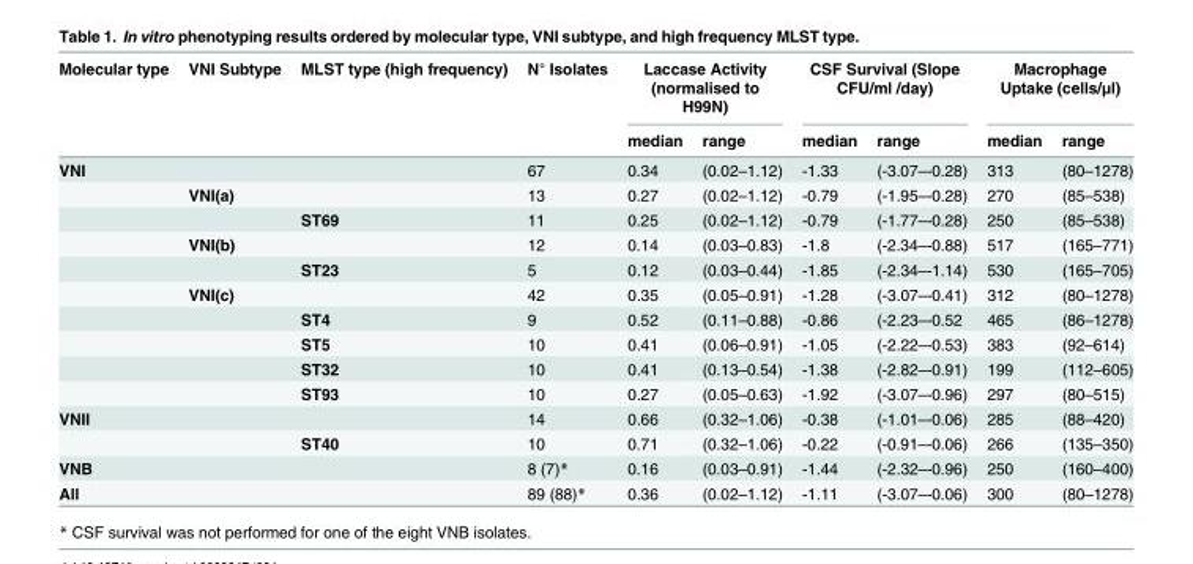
<table><thead><tr><td rowspan="2">Molecular type</td><td rowspan="2">VNI Subtype</td><td rowspan="2">MLST type (high frequency)</td><td rowspan="2">N° Isolates</td><td colspan="2">Laccase Activity (normalised to H99N)</td><td colspan="2">CSF Survival (Slope CFU/ml /day)</td><td colspan="2">Macrophage Uptake (cells/μl)</td></tr><tr><td>median</td><td>range</td><td>median</td><td>range</td><td>median</td><td>range</td></tr></thead><tbody><tr><td rowspan="10">VNI</td><td></td><td></td><td>67</td><td>0.34</td><td>(0.02–1.12)</td><td>-1.33</td><td>(-3.07–-0.28)</td><td>313</td><td>(80–1278)</td></tr><tr><td>VNI(a)</td><td></td><td>13</td><td>0.27</td><td>(0.02–1.12)</td><td>-0.79</td><td>(-1.95–-0.28)</td><td>270</td><td>(85–538)</td></tr><tr><td></td><td>ST69</td><td>11</td><td>0.25</td><td>(0.02–1.12)</td><td>-0.79</td><td>(-1.77–-0.28)</td><td>250</td><td>(85–538)</td></tr><tr><td>VNI(b)</td><td></td><td>12</td><td>0.14</td><td>(0.03–0.83)</td><td>-1.8</td><td>(-2.34–-0.88)</td><td>517</td><td>(165–771)</td></tr><tr><td></td><td>ST23</td><td>5</td><td>0.12</td><td>(0.03–0.44)</td><td>-1.85</td><td>(-2.34–-1.14)</td><td>530</td><td>(165–705)</td></tr><tr><td>VNI(c)</td><td></td><td>42</td><td>0.35</td><td>(0.05–0.91)</td><td>-1.28</td><td>(-3.07–-0.41)</td><td>312</td><td>(80–1278)</td></tr><tr><td></td><td>ST4</td><td>9</td><td>0.52</td><td>(0.11–0.88)</td><td>-0.86</td><td>(-2.23–-0.52</td><td>465</td><td>(86–1278)</td></tr><tr><td></td><td>ST5</td><td>10</td><td>0.41</td><td>(0.06–0.91)</td><td>-1.05</td><td>(-2.22–-0.53)</td><td>383</td><td>(92–614)</td></tr><tr><td></td><td>ST32</td><td>10</td><td>0.41</td><td>(0.13–0.54)</td><td>-1.38</td><td>(-2.82–-0.91)</td><td>199</td><td>(112–605)</td></tr><tr><td></td><td>ST93</td><td>10</td><td>0.27</td><td>(0.05–0.63)</td><td>-1.92</td><td>(-3.07–-0.96)</td><td>297</td><td>(80–515)</td></tr><tr><td rowspan="2">VNII</td><td></td><td></td><td>14</td><td>0.66</td><td>(0.32–1.06)</td><td>-0.38</td><td>(-1.01–-0.06)</td><td>285</td><td>(88–420)</td></tr><tr><td></td><td>ST40</td><td>10</td><td>0.71</td><td>(0.32–1.06)</td><td>-0.22</td><td>(-0.91–-0.06)</td><td>266</td><td>(135–350)</td></tr><tr><td>VNB</td><td></td><td></td><td>8 (7)*</td><td>0.16</td><td>(0.03–0.91)</td><td>-1.44</td><td>(-2.32–-0.96)</td><td>250</td><td>(160–400)</td></tr><tr><td>All</td><td></td><td></td><td>89 (88)*</td><td>0.36</td><td>(0.02–1.12)</td><td>-1.11</td><td>(-3.07–-0.06)</td><td>300</td><td>(80–1278)</td></tr></tbody></table>